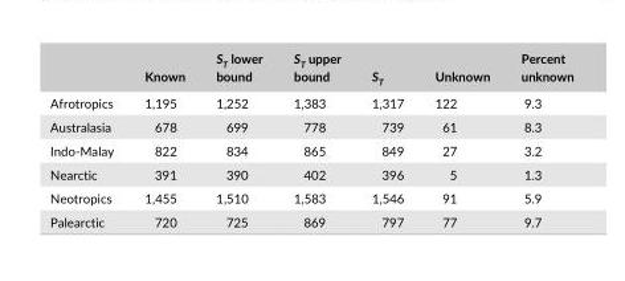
<table><thead><tr><td></td><td>Known</td><td>S<sub>T</sub> lower bound</td><td>S<sub>T</sub> upper bound</td><td>S<sub>T</sub></td><td>Unknown</td><td>Percent unknown</td></tr></thead><tbody><tr><td>Afrotropics</td><td>1,195</td><td>1,252</td><td>1,383</td><td>1,317</td><td>122</td><td>9.3</td></tr><tr><td>Australasia</td><td>678</td><td>699</td><td>778</td><td>739</td><td>61</td><td>8.3</td></tr><tr><td>Indo- Malay</td><td>822</td><td>834</td><td>865</td><td>849</td><td>27</td><td>3.2</td></tr><tr><td>Nearctic</td><td>391</td><td>390</td><td>402</td><td>396</td><td>5</td><td>1.3</td></tr><tr><td>Neotropics</td><td>1,455</td><td>1,510</td><td>1,583</td><td>1,546</td><td>91</td><td>5.9</td></tr><tr><td>Palearctic</td><td>720</td><td>725</td><td>869</td><td>797</td><td>77</td><td>9.7</td></tr></tbody></table>